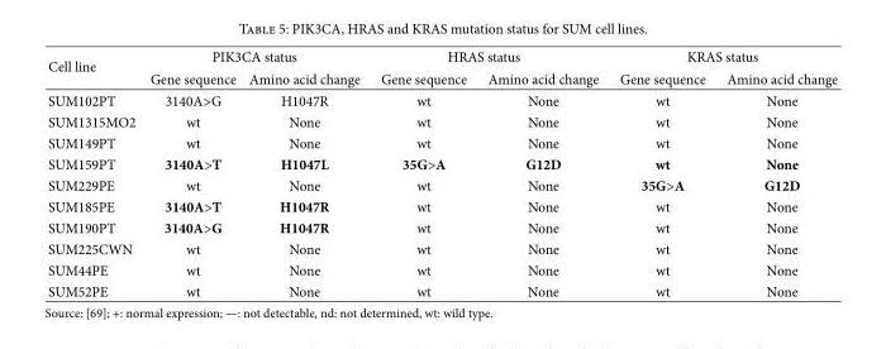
<table><thead><tr><td rowspan="2">Cell line</td><td colspan="2">PIK3CA status</td><td colspan="2">HRAS status</td><td colspan="2">KRAS status</td></tr><tr><td>Gene sequence</td><td>Amino acid change</td><td>Gene sequence</td><td>Amino acid change</td><td>Gene sequence</td><td>Amino acid change</td></tr></thead><tbody><tr><td>SUM102PT</td><td>3140A&gt;G</td><td>H1047R</td><td>wt</td><td>None</td><td>wt</td><td>None</td></tr><tr><td>SUM1315MO2</td><td>wt</td><td>None</td><td>wt</td><td>None</td><td>wt</td><td>None</td></tr><tr><td>SUM149PT</td><td>wt</td><td>None</td><td>wt</td><td>None</td><td>wt</td><td>None</td></tr><tr><td>SUM159PT</td><td>3140A&gt;T</td><td>H1047L</td><td>35G&gt;A</td><td>G12D</td><td>wt</td><td>None</td></tr><tr><td>SUM229PE</td><td>wt</td><td>None</td><td>wt</td><td>None</td><td>35G&gt;A</td><td>G12D</td></tr><tr><td>SUM185PE</td><td>3140A&gt;T</td><td>H1047R</td><td>wt</td><td>None</td><td>wt</td><td>None</td></tr><tr><td>SUM190PT</td><td>3140A&gt;G</td><td>H1047R</td><td>wt</td><td>None</td><td>wt</td><td>None</td></tr><tr><td>SUM225CWN</td><td>wt</td><td>None</td><td>wt</td><td>None</td><td>wt</td><td>None</td></tr><tr><td>SUM44PE</td><td>wt</td><td>None</td><td>wt</td><td>None</td><td>wt</td><td>None</td></tr><tr><td>SUM52PE</td><td>wt</td><td>None</td><td>wt</td><td>None</td><td>wt</td><td>None</td></tr></tbody></table>